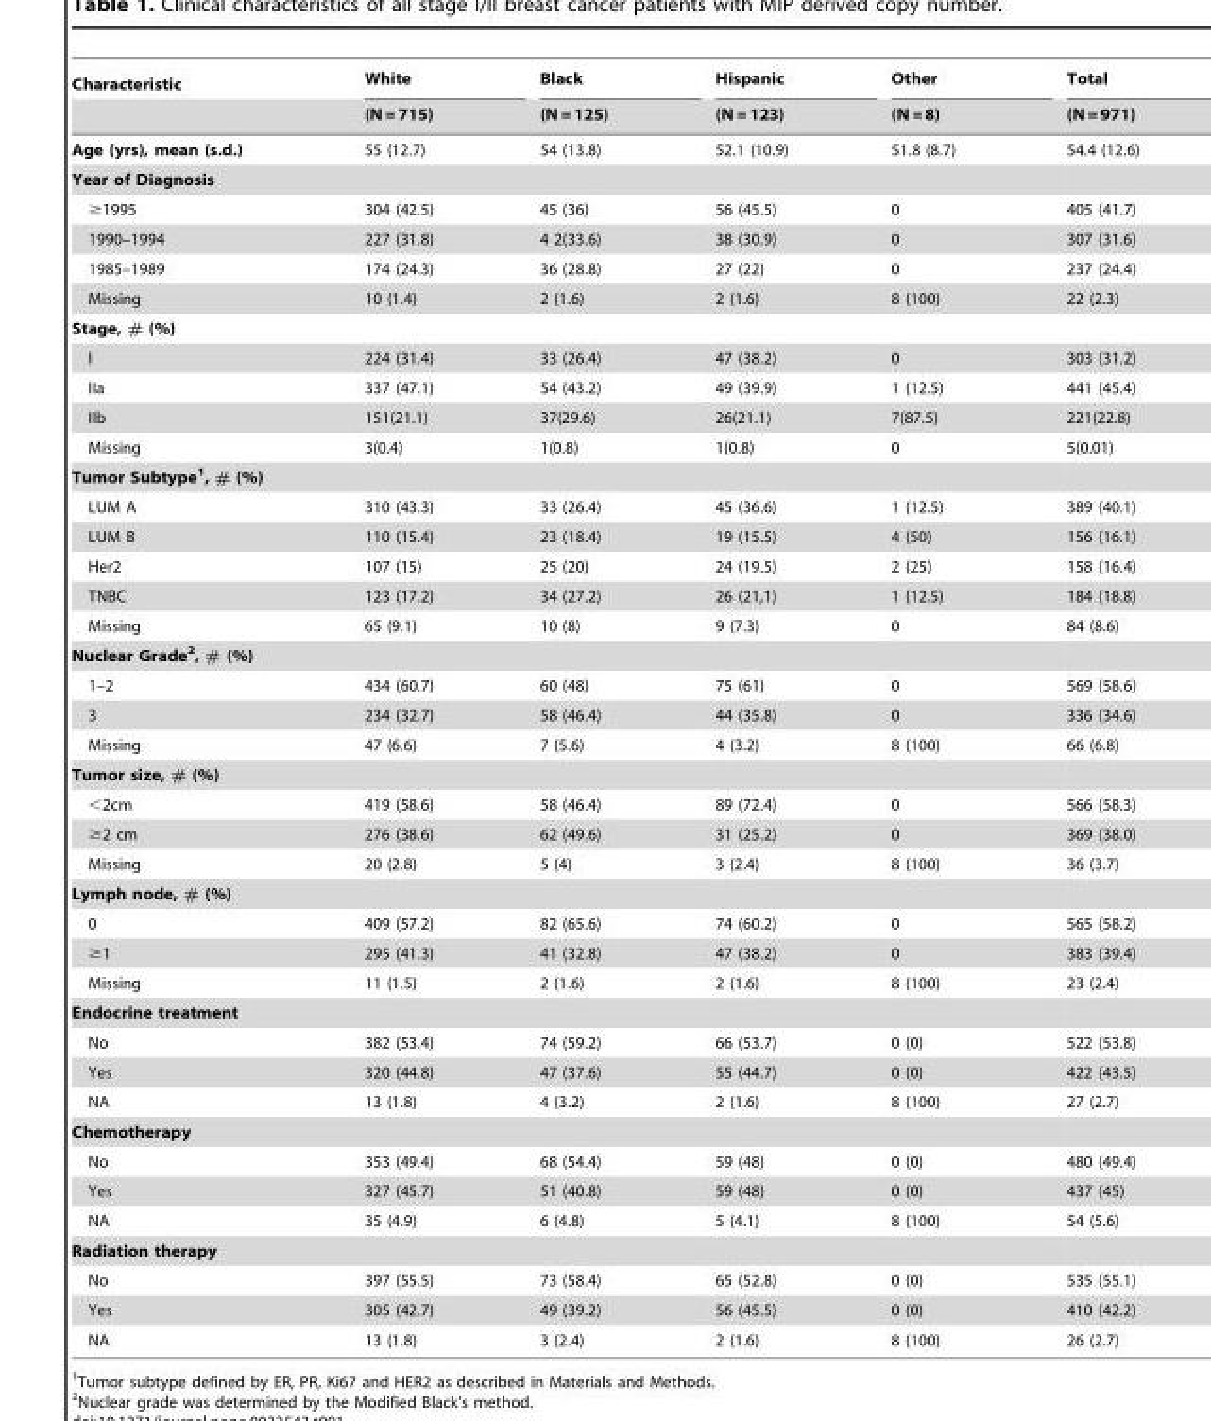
<table><thead><tr><td rowspan="2">Characteristic</td><td rowspan="2">White (N = 715)</td><td rowspan="2">Black (N = 125)</td><td rowspan="2">Hispanic (N = 123)</td><td rowspan="2">Other (N = 8)</td><td rowspan="2">Total (N = 971)</td></tr><tr></tr></thead><tbody><tr><td>Age (yrs), mean (s.d.)</td><td>55 (12.7)</td><td>54 (13.8)</td><td>52.1 (10.9)</td><td>51.8 (8.7)</td><td>54.4 (12.6)</td></tr><tr><td colspan="6">Year of Diagnosis</td></tr><tr><td>≥1995</td><td>304 (42.5)</td><td>45 (36)</td><td>56 (45.5)</td><td>0</td><td>405 (41.7)</td></tr><tr><td>1990–1994</td><td>227 (31.8)</td><td>4 2(33.6)</td><td>38 (30.9)</td><td>0</td><td>307 (31.6)</td></tr><tr><td>1985–1989</td><td>174 (24.3)</td><td>36 (28.8)</td><td>27 (22)</td><td>0</td><td>237 (24.4)</td></tr><tr><td>Missing</td><td>10 (1.4)</td><td>2 (1.6)</td><td>2 (1.6)</td><td>8 (100)</td><td>22 (2.3)</td></tr><tr><td colspan="6">Stage, # (%)</td></tr><tr><td>I</td><td>224 (31.4)</td><td>33 (26.4)</td><td>47 (38.2)</td><td>0</td><td>303 (31.2)</td></tr><tr><td>IIa</td><td>337 (47.1)</td><td>54 (43.2)</td><td>49 (39.9)</td><td>1 (12.5)</td><td>441 (45.4)</td></tr><tr><td>IIb</td><td>151(21.1)</td><td>37(29.6)</td><td>26(21.1)</td><td>7(87.5)</td><td>221(22.8)</td></tr><tr><td>Missing</td><td>3(0.4)</td><td>1(0.8)</td><td>1(0.8)</td><td>0</td><td>5(0.01)</td></tr><tr><td colspan="6">Tumor Subtype1, # (%)</td></tr><tr><td>LUM A</td><td>310 (43.3)</td><td>33 (26.4)</td><td>45 (36.6)</td><td>1 (12.5)</td><td>389 (40.1)</td></tr><tr><td>LUM B</td><td>110 (15.4)</td><td>23 (18.4)</td><td>19 (15.5)</td><td>4 (50)</td><td>156 (16.1)</td></tr><tr><td>Her2</td><td>107 (15)</td><td>25 (20)</td><td>24 (19.5)</td><td>2 (25)</td><td>158 (16.4)</td></tr><tr><td>TNBC</td><td>123 (17.2)</td><td>34 (27.2)</td><td>26 (21,1)</td><td>1 (12.5)</td><td>184 (18.8)</td></tr><tr><td>Missing</td><td>65 (9.1)</td><td>10 (8)</td><td>9 (7.3)</td><td>0</td><td>84 (8.6)</td></tr><tr><td colspan="6">Nuclear Grade2, # (%)</td></tr><tr><td>1–2</td><td>434 (60.7)</td><td>60 (48)</td><td>75 (61)</td><td>0</td><td>569 (58.6)</td></tr><tr><td>3</td><td>234 (32.7)</td><td>58 (46.4)</td><td>44 (35.8)</td><td>0</td><td>336 (34.6)</td></tr><tr><td>Missing</td><td>47 (6.6)</td><td>7 (5.6)</td><td>4 (3.2)</td><td>8 (100)</td><td>66 (6.8)</td></tr><tr><td colspan="6">Tumor size, # (%)</td></tr><tr><td>&lt;2cm</td><td>419 (58.6)</td><td>58 (46.4)</td><td>89 (72.4)</td><td>0</td><td>566 (58.3)</td></tr><tr><td>≥2 cm</td><td>276 (38.6)</td><td>62 (49.6)</td><td>31 (25.2)</td><td>0</td><td>369 (38.0)</td></tr><tr><td>Missing</td><td>20 (2.8)</td><td>5 (4)</td><td>3 (2.4)</td><td>8 (100)</td><td>36 (3.7)</td></tr><tr><td colspan="6">Lymph node, # (%)</td></tr><tr><td>0</td><td>409 (57.2)</td><td>82 (65.6)</td><td>74 (60.2)</td><td>0</td><td>565 (58.2)</td></tr><tr><td>≥1</td><td>295 (41.3)</td><td>41 (32.8)</td><td>47 (38.2)</td><td>0</td><td>383 (39.4)</td></tr><tr><td>Missing</td><td>11 (1.5)</td><td>2 (1.6)</td><td>2 (1.6)</td><td>8 (100)</td><td>23 (2.4)</td></tr><tr><td colspan="6">Endocrine treatment</td></tr><tr><td>No</td><td>382 (53.4)</td><td>74 (59.2)</td><td>66 (53.7)</td><td>0 (0)</td><td>522 (53.8)</td></tr><tr><td>Yes</td><td>320 (44.8)</td><td>47 (37.6)</td><td>55 (44.7)</td><td>0 (0)</td><td>422 (43.5)</td></tr><tr><td>NA</td><td>13 (1.8)</td><td>4 (3.2)</td><td>2 (1.6)</td><td>8 (100)</td><td>27 (2.7)</td></tr><tr><td colspan="6">Chemotherapy</td></tr><tr><td>No</td><td>353 (49.4)</td><td>68 (54.4)</td><td>59 (48)</td><td>0 (0)</td><td>480 (49.4)</td></tr><tr><td>Yes</td><td>327 (45.7)</td><td>51 (40.8)</td><td>59 (48)</td><td>0 (0)</td><td>437 (45)</td></tr><tr><td>NA</td><td>35 (4.9)</td><td>6 (4.8)</td><td>5 (4.1)</td><td>8 (100)</td><td>54 (5.6)</td></tr><tr><td colspan="6">Radiation therapy</td></tr><tr><td>No</td><td>397 (55.5)</td><td>73 (58.4)</td><td>65 (52.8)</td><td>0 (0)</td><td>535 (55.1)</td></tr><tr><td>Yes</td><td>305 (42.7)</td><td>49 (39.2)</td><td>56 (45.5)</td><td>0 (0)</td><td>410 (42.2)</td></tr><tr><td>NA</td><td>13 (1.8)</td><td>3 (2.4)</td><td>2 (1.6)</td><td>8 (100)</td><td>26 (2.7)</td></tr></tbody></table>